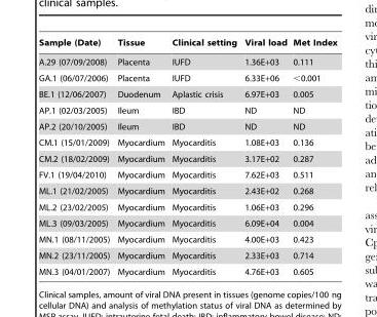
<table><thead><tr><td>Sample (Date)</td><td>Tissue</td><td>Clinical setting</td><td>Viral load</td><td>Met Index</td></tr></thead><tbody><tr><td>A.29 (07/09/2008)</td><td>Placenta</td><td>IUFD</td><td>1.36E+03</td><td>0.111</td></tr><tr><td>GA.1 (06/07/2006)</td><td>Placenta</td><td>IUFD</td><td>6.33E+06</td><td>&lt;0.001</td></tr><tr><td>BE.1 (12/06/2007)</td><td>Duodenum</td><td>Aplastic crisis</td><td>6.97E+03</td><td>0.005</td></tr><tr><td>AP.1 (02/03/2005)</td><td>Ileum</td><td>IBD</td><td>ND</td><td>ND</td></tr><tr><td>AP.2 (20/10/2005)</td><td>Ileum</td><td>IBD</td><td>ND</td><td>ND</td></tr><tr><td>CM.1 (15/01/2009)</td><td>Myocardium</td><td>Myocarditis</td><td>1.08E+03</td><td>0.136</td></tr><tr><td>CM.2 (18/02/2009)</td><td>Myocardium</td><td>Myocarditis</td><td>3.17E+02</td><td>0.287</td></tr><tr><td>FV.1 (19/04/2010)</td><td>Myocardium</td><td>Myocarditis</td><td>7.62E+03</td><td>0.511</td></tr><tr><td>ML.1 (21/02/2005)</td><td>Myocardium</td><td>Myocarditis</td><td>2.43E+02</td><td>0.268</td></tr><tr><td>ML.2 (23/02/2005)</td><td>Myocardium</td><td>Myocarditis</td><td>1.06E+03</td><td>0.296</td></tr><tr><td>ML.3 (09/03/2005)</td><td>Myocardium</td><td>Myocarditis</td><td>6.09E+04</td><td>0.004</td></tr><tr><td>MN.1 (08/11/2005)</td><td>Myocardium</td><td>Myocarditis</td><td>4.00E+03</td><td>0.423</td></tr><tr><td>MN.2 (23/11/2005)</td><td>Myocardium</td><td>Myocarditis</td><td>2.33E+03</td><td>0.714</td></tr><tr><td>MN.3 (04/01/2007)</td><td>Myocardium</td><td>Myocarditis</td><td>4.76E+03</td><td>0.605</td></tr></tbody></table>